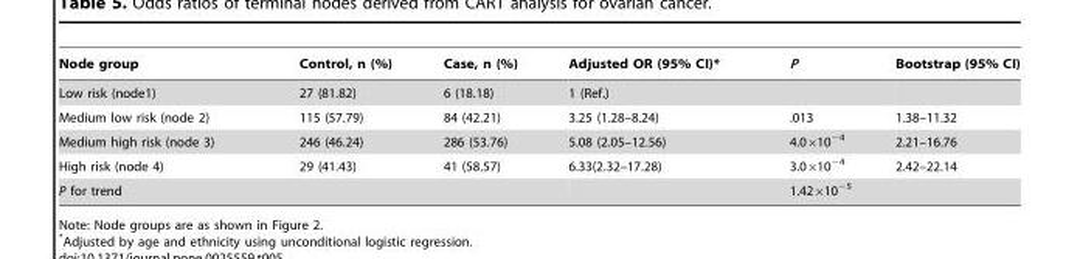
<table><thead><tr><td>Node group</td><td>Control, n (%)</td><td>Case, n (%)</td><td>Adjusted OR (95% CI)*</td><td>P</td><td>Bootstrap (95% CI)</td></tr></thead><tbody><tr><td>Low risk (node1)</td><td>27 (81.82)</td><td>6 (18.18)</td><td>1 (Ref.)</td><td></td><td></td></tr><tr><td>Medium low risk (node 2)</td><td>115 (57.79)</td><td>84 (42.21)</td><td>3.25 (1.28–8.24)</td><td>.013</td><td>1.38–11.32</td></tr><tr><td>Medium high risk (node 3)</td><td>246 (46.24)</td><td>286 (53.76)</td><td>5.08 (2.05–12.56)</td><td>4.0×10<sup>−4</sup></td><td>2.21–16.76</td></tr><tr><td>High risk (node 4)</td><td>29 (41.43)</td><td>41 (58.57)</td><td>6.33(2.32–17.28)</td><td>3.0×10<sup>−4</sup></td><td>2.42–22.14</td></tr><tr><td>P for trend</td><td></td><td></td><td></td><td>1.42×10<sup>−5</sup></td><td></td></tr></tbody></table>